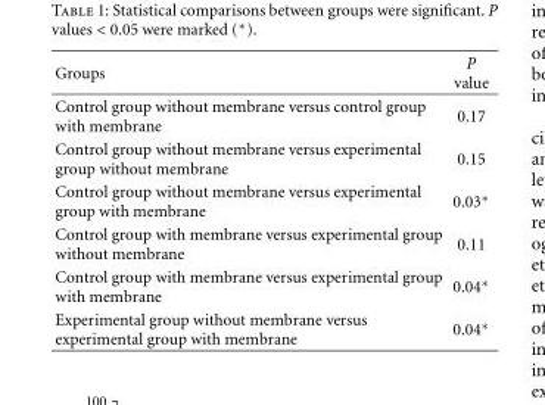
<table><thead><tr><td>Groups</td><td>P value</td></tr></thead><tbody><tr><td>Control group without membrane versus control group with membrane</td><td>0.17</td></tr><tr><td>Control group without membrane versus experimental group without membrane</td><td>0.15</td></tr><tr><td>Control group without membrane versus experimental group with membrane</td><td>0.03∗</td></tr><tr><td>Control group with membrane versus experimental group without membrane</td><td>0.11</td></tr><tr><td>Control group with membrane versus experimental group with membrane</td><td>0.04∗</td></tr><tr><td>Experimental group without membrane versus experimental group with membrane</td><td>0.04∗</td></tr></tbody></table>